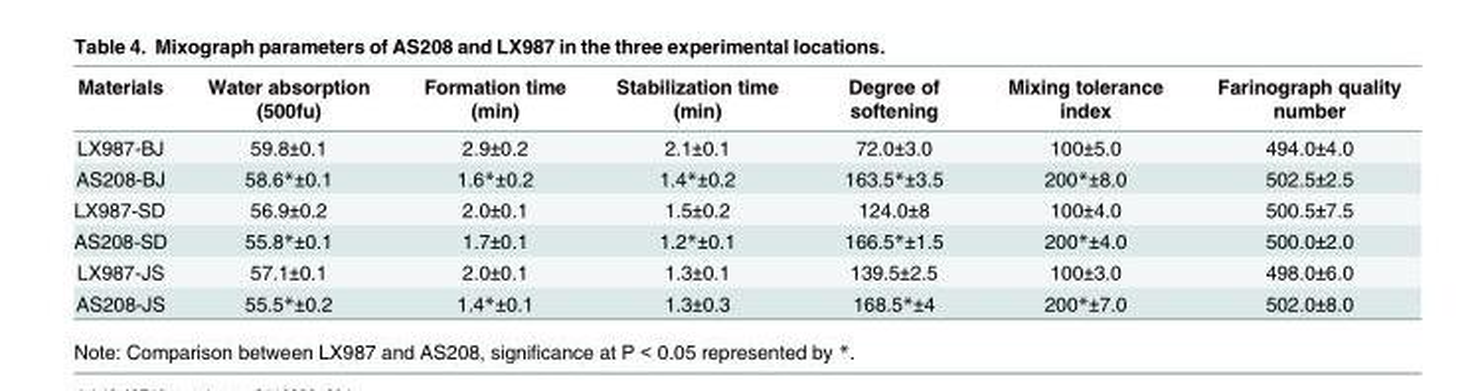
<table><thead><tr><td>Materials</td><td>Water absorption (500fu)</td><td>Formation time (min)</td><td>Stabilization time (min)</td><td>Degree of softening</td><td>Mixing tolerance index</td><td>Farinograph quality number</td></tr></thead><tbody><tr><td>LX987-BJ</td><td>59.8±0.1</td><td>2.9±0.2</td><td>2.1±0.1</td><td>72.0±3.0</td><td>100±5.0</td><td>494.0±4.0</td></tr><tr><td>AS208-BJ</td><td>58.6*±0.1</td><td>1.6*±0.2</td><td>1.4*±0.2</td><td>163.5*±3.5</td><td>200*±8.0</td><td>502.5±2.5</td></tr><tr><td>LX987-SD</td><td>56.9±0.2</td><td>2.0±0.1</td><td>1.5±0.2</td><td>124.0±8</td><td>100±4.0</td><td>500.5±7.5</td></tr><tr><td>AS208-SD</td><td>55.8*±0.1</td><td>1.7±0.1</td><td>1.2*±0.1</td><td>166.5*±1.5</td><td>200*±4.0</td><td>500.0±2.0</td></tr><tr><td>LX987-JS</td><td>57.1±0.1</td><td>2.0±0.1</td><td>1.3±0.1</td><td>139.5±2.5</td><td>100±3.0</td><td>498.0±6.0</td></tr><tr><td>AS208-JS</td><td>55.5*±0.2</td><td>1.4*±0.1</td><td>1.3±0.3</td><td>168.5*±4</td><td>200*±7.0</td><td>502.0±8.0</td></tr></tbody></table>